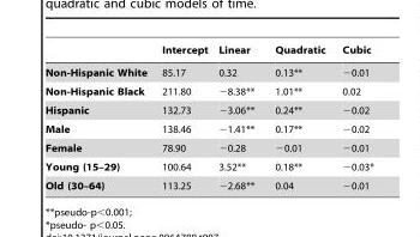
<table><thead><tr><td></td><td>Intercept</td><td>Linear</td><td>Quadratic</td><td>Cubic</td></tr></thead><tbody><tr><td>Non-Hispanic White</td><td>85.17</td><td>0.32</td><td>0.13**</td><td>−0.01</td></tr><tr><td>Non-Hispanic Black</td><td>211.80</td><td>−8.38**</td><td>1.01**</td><td>0.02</td></tr><tr><td>Hispanic</td><td>132.73</td><td>−3.06**</td><td>0.24**</td><td>−0.02</td></tr><tr><td>Male</td><td>138.46</td><td>−1.41**</td><td>0.17**</td><td>−0.02</td></tr><tr><td>Female</td><td>78.90</td><td>−0.28</td><td>−0.01</td><td>−0.01</td></tr><tr><td>Young (15–29)</td><td>100.64</td><td>3.52**</td><td>0.18**</td><td>−0.03*</td></tr><tr><td>Old (30–64)</td><td>113.25</td><td>−2.68**</td><td>0.04</td><td>−0.01</td></tr></tbody></table>